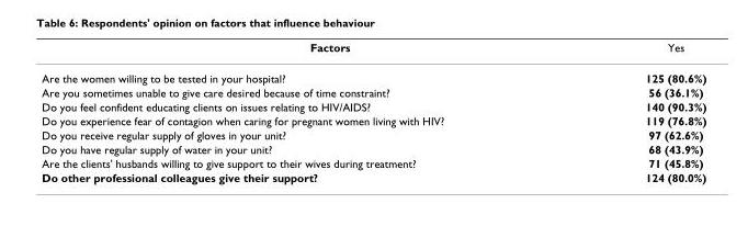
<table><thead><tr><td>Factors</td><td>Yes</td></tr></thead><tbody><tr><td>Are the women willing to be tested in your hospital?</td><td>125 (80.6%)</td></tr><tr><td>Are you sometimes unable to give care desired because of time constraint?</td><td>56 (36.1%)</td></tr><tr><td>Do you feel confident educating clients on issues relating to HIV/AIDS?</td><td>140 (90.3%)</td></tr><tr><td>Do you experience fear of contagion when caring for pregnant women living with HIV?</td><td>119 (76.8%)</td></tr><tr><td>Do you receive regular supply of gloves in your unit?</td><td>97 (62.6%)</td></tr><tr><td>Do you have regular supply of water in your unit?</td><td>68 (43.9%)</td></tr><tr><td>Are the clients&#x27; husbands willing to give support to their wives during treatment?</td><td>71 (45.8%)</td></tr><tr><td>Do other professional colleagues give their support?</td><td>124 (80.0%)</td></tr></tbody></table>